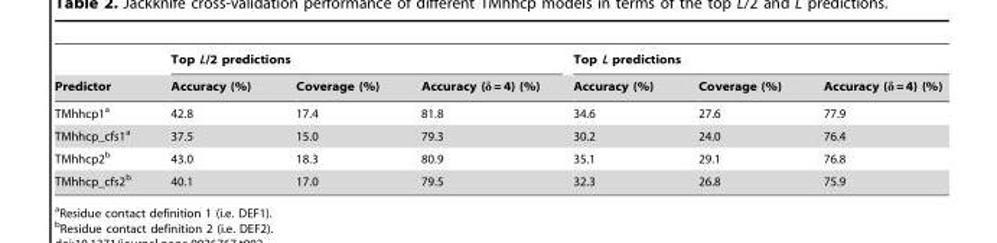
<table><thead><tr><td rowspan="2">Predictor</td><td colspan="3">Top L/2 predictions</td><td colspan="3">Top L predictions</td></tr><tr><td>Accuracy (%)</td><td>Coverage (%)</td><td>Accuracy (δ = 4) (%)</td><td>Accuracy (%)</td><td>Coverage (%)</td><td>Accuracy (δ = 4) (%)</td></tr></thead><tbody><tr><td>TMhhcp1<sup>a</sup></td><td>42.8</td><td>17.4</td><td>81.8</td><td>34.6</td><td>27.6</td><td>77.9</td></tr><tr><td>TMhhcp_cfs1<sup>a</sup></td><td>37.5</td><td>15.0</td><td>79.3</td><td>30.2</td><td>24.0</td><td>76.4</td></tr><tr><td>TMhhcp2<sup>b</sup></td><td>43.0</td><td>18.3</td><td>80.9</td><td>35.1</td><td>29.1</td><td>76.8</td></tr><tr><td>TMhhcp_cfs2<sup>b</sup></td><td>40.1</td><td>17.0</td><td>79.5</td><td>32.3</td><td>26.8</td><td>75.9</td></tr></tbody></table>